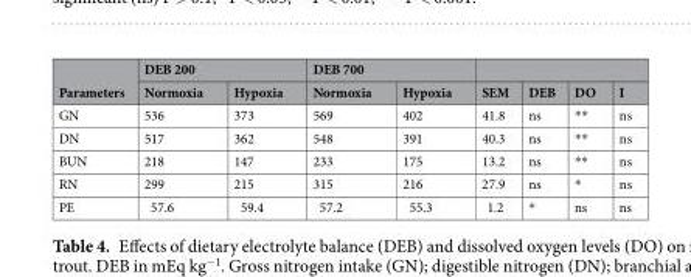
<table><thead><tr><td rowspan="2">Parameters</td><td colspan="2">DEB 200</td><td colspan="2">DEB 700</td><td rowspan="2">SEM</td><td rowspan="2">DEB</td><td rowspan="2">DO</td><td rowspan="2">I</td></tr><tr><td>Normoxia</td><td>Hypoxia</td><td>Normoxia</td><td>Hypoxia</td></tr></thead><tbody><tr><td>GN</td><td>536</td><td>373</td><td>569</td><td>402</td><td>41.8</td><td>ns</td><td>**</td><td>ns</td></tr><tr><td>DN</td><td>517</td><td>362</td><td>548</td><td>391</td><td>40.3</td><td>ns</td><td>**</td><td>ns</td></tr><tr><td>BUN</td><td>218</td><td>147</td><td>233</td><td>175</td><td>13.2</td><td>ns</td><td>**</td><td>ns</td></tr><tr><td>RN</td><td>299</td><td>215</td><td>315</td><td>216</td><td>27.9</td><td>ns</td><td>*</td><td>ns</td></tr><tr><td>PE</td><td>57.6</td><td>59.4</td><td>57.2</td><td>55.3</td><td>1.2</td><td>*</td><td>ns</td><td>ns</td></tr></tbody></table>